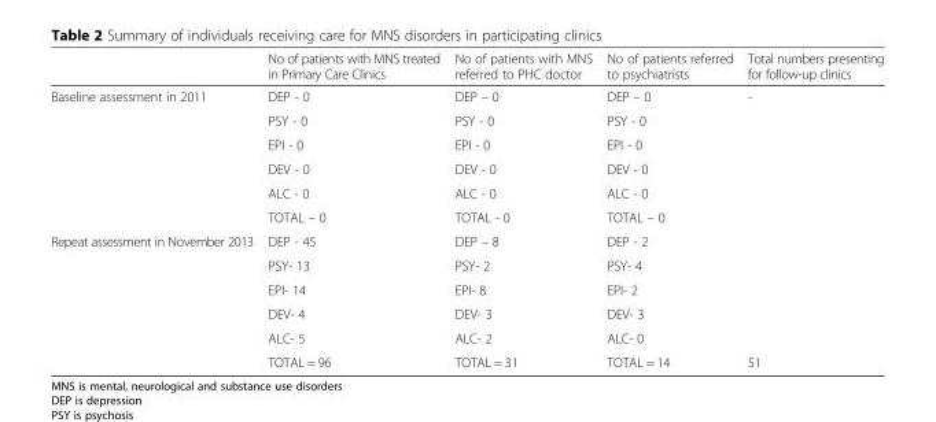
<table><thead><tr><td></td><td>No of patients with MNS treated in Primary Care Clinics</td><td>No of patients with MNS referred to PHC doctor</td><td>No of patients referred to psychiatrists</td><td>Total numbers presenting for follow-up clinics</td></tr></thead><tbody><tr><td rowspan="6">Baseline assessment in 2011</td><td>DEP - 0</td><td>DEP – 0</td><td>DEP – 0</td><td rowspan="11">-</td></tr><tr><td>PSY - 0</td><td>PSY - 0</td><td>PSY - 0</td></tr><tr><td>EPI - 0</td><td>EPI - 0</td><td>EPI - 0</td></tr><tr><td>DEV - 0</td><td>DEV - 0</td><td>DEV - 0</td></tr><tr><td>ALC - 0</td><td>ALC - 0</td><td>ALC - 0</td></tr><tr><td>TOTAL – 0</td><td>TOTAL - 0</td><td>TOTAL – 0</td></tr><tr><td rowspan="6">Repeat assessment in November 2013</td><td>DEP - 45</td><td>DEP – 8</td><td>DEP - 2</td></tr><tr><td>PSY- 13</td><td>PSY- 2</td><td>PSY- 4</td></tr><tr><td>EPI- 14</td><td>EPI- 8</td><td>EPI- 2</td></tr><tr><td>DEV- 4</td><td>DEV- 3</td><td>DEV- 3</td></tr><tr><td>ALC- 5</td><td>ALC- 2</td><td>ALC- 0</td></tr><tr><td>TOTAL = 96</td><td>TOTAL = 31</td><td>TOTAL = 14</td><td>51</td></tr></tbody></table>